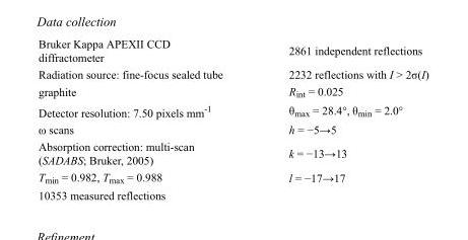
<table><tbody><tr><td>Bruker Kappa APEXII CCD diffractometer</td><td>2861 independent reflections</td></tr><tr><td>Radiation source: fine-focus sealed tube</td><td>2232 reflections with I &gt; 2σ(I)</td></tr><tr><td>graphite</td><td>R<sub>int</sub> = 0.025</td></tr><tr><td>Detector resolution: 7.50 pixels mm<sup>-1</sup></td><td>θ<sub>max</sub> = 28.4°, θ<sub>min</sub> = 2.0°</td></tr><tr><td>ω scans</td><td>h = −5→5</td></tr><tr><td>Absorption correction: multi-scan (SADABS; Bruker, 2005)</td><td>k = −13→13</td></tr><tr><td>T<sub>min</sub> = 0.982, T<sub>max</sub> = 0.988</td><td>l = −17→17</td></tr><tr><td>10353 measured reflections</td><td></td></tr></tbody></table>